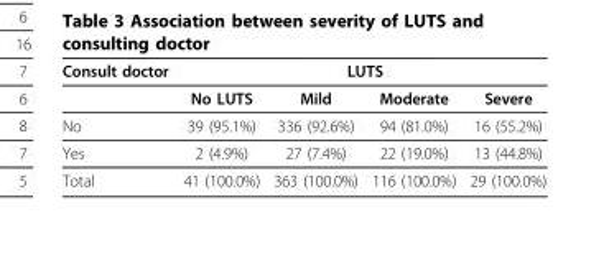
<table><thead><tr><td rowspan="2">Consult doctor</td><td colspan="4">LUTS</td></tr><tr><td>No LUTS</td><td>Mild</td><td>Moderate</td><td>Severe</td></tr></thead><tbody><tr><td>No</td><td>39 (95.1%)</td><td>336 (92.6%)</td><td>94 (81.0%)</td><td>16 (55.2%)</td></tr><tr><td>Yes</td><td>2 (4.9%)</td><td>27 (7.4%)</td><td>22 (19.0%)</td><td>13 (44.8%)</td></tr><tr><td>Total</td><td>41 (100.0%)</td><td>363 (100.0%)</td><td>116 (100.0%)</td><td>29 (100.0%)</td></tr></tbody></table>